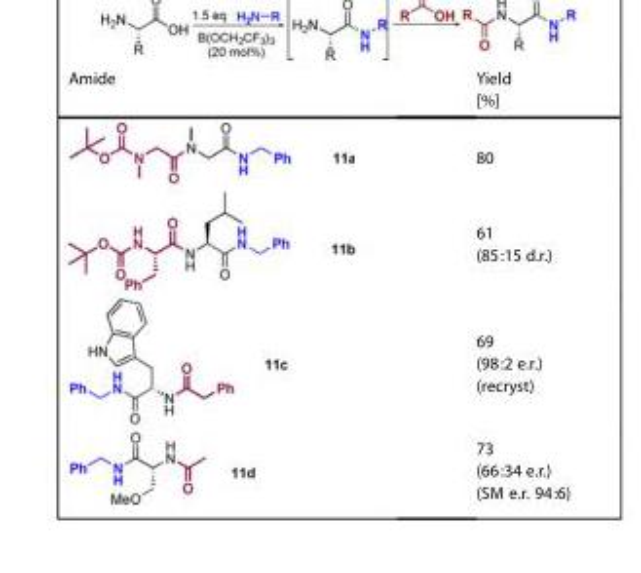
<table><thead><tr><td>Amide</td><td>Yield [%]</td></tr></thead><tbody><tr><td></td><td>80</td></tr><tr><td></td><td>61 (85:15 d.r.)</td></tr><tr><td></td><td>69 (98:2 e.r.) (recryst)</td></tr><tr><td></td><td>73 (66:34 e.r.) (SM e.r. 94:6)</td></tr></tbody></table>